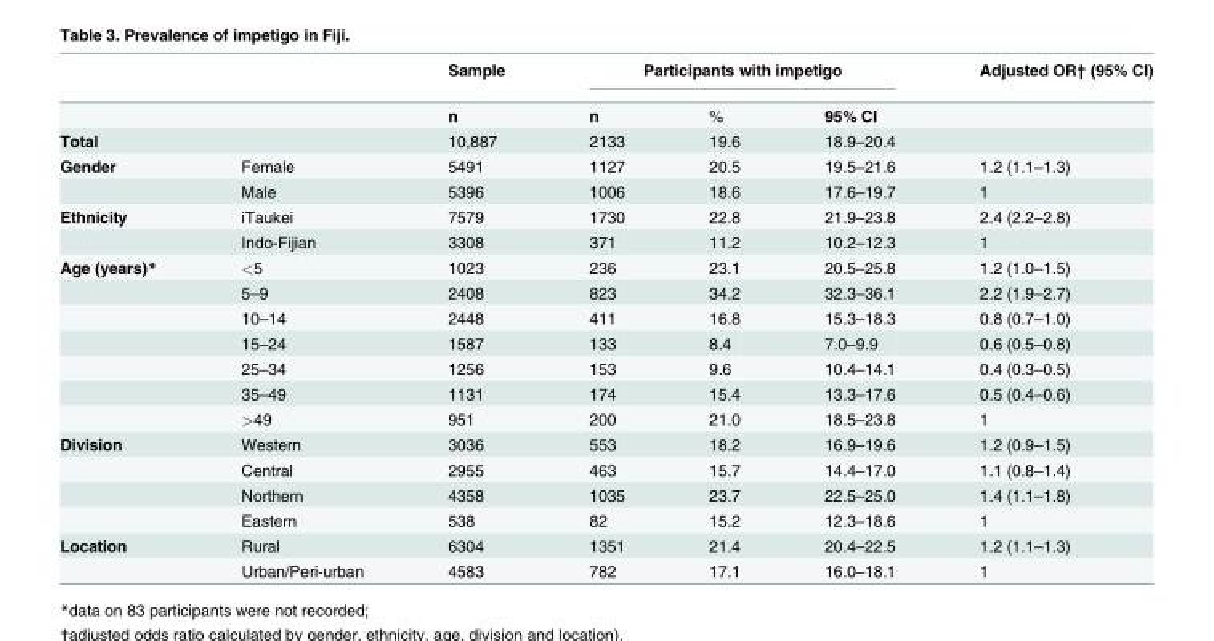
<table><thead><tr><td rowspan="2"></td><td rowspan="2"></td><td rowspan="2">Sample n</td><td colspan="3">Participants with impetigo</td><td rowspan="2">Adjusted OR† (95% CI)</td></tr><tr><td>n</td><td>%</td><td>95% CI</td></tr></thead><tbody><tr><td>Total</td><td></td><td>10,887</td><td>2133</td><td>19.6</td><td>18.9–20.4</td><td></td></tr><tr><td rowspan="2">Gender</td><td>Female</td><td>5491</td><td>1127</td><td>20.5</td><td>19.5–21.6</td><td>1.2 (1.1–1.3)</td></tr><tr><td>Male</td><td>5396</td><td>1006</td><td>18.6</td><td>17.6–19.7</td><td>1</td></tr><tr><td rowspan="2">Ethnicity</td><td>iTaukei</td><td>7579</td><td>1730</td><td>22.8</td><td>21.9–23.8</td><td>2.4 (2.2–2.8)</td></tr><tr><td>Indo-Fijian</td><td>3308</td><td>371</td><td>11.2</td><td>10.2–12.3</td><td>1</td></tr><tr><td rowspan="7">Age (years)*</td><td>&lt;5</td><td>1023</td><td>236</td><td>23.1</td><td>20.5–25.8</td><td>1.2 (1.0–1.5)</td></tr><tr><td>5–9</td><td>2408</td><td>823</td><td>34.2</td><td>32.3–36.1</td><td>2.2 (1.9–2.7)</td></tr><tr><td>10–14</td><td>2448</td><td>411</td><td>16.8</td><td>15.3–18.3</td><td>0.8 (0.7–1.0)</td></tr><tr><td>15–24</td><td>1587</td><td>133</td><td>8.4</td><td>7.0–9.9</td><td>0.6 (0.5–0.8)</td></tr><tr><td>25–34</td><td>1256</td><td>153</td><td>9.6</td><td>10.4–14.1</td><td>0.4 (0.3–0.5)</td></tr><tr><td>35–49</td><td>1131</td><td>174</td><td>15.4</td><td>13.3–17.6</td><td>0.5 (0.4–0.6)</td></tr><tr><td>&gt;49</td><td>951</td><td>200</td><td>21.0</td><td>18.5–23.8</td><td>1</td></tr><tr><td rowspan="4">Division</td><td>Western</td><td>3036</td><td>553</td><td>18.2</td><td>16.9–19.6</td><td>1.2 (0.9–1.5)</td></tr><tr><td>Central</td><td>2955</td><td>463</td><td>15.7</td><td>14.4–17.0</td><td>1.1 (0.8–1.4)</td></tr><tr><td>Northern</td><td>4358</td><td>1035</td><td>23.7</td><td>22.5–25.0</td><td>1.4 (1.1–1.8)</td></tr><tr><td>Eastern</td><td>538</td><td>82</td><td>15.2</td><td>12.3–18.6</td><td>1</td></tr><tr><td rowspan="2">Location</td><td>Rural</td><td>6304</td><td>1351</td><td>21.4</td><td>20.4–22.5</td><td>1.2 (1.1–1.3)</td></tr><tr><td>Urban/Peri-urban</td><td>4583</td><td>782</td><td>17.1</td><td>16.0–18.1</td><td>1</td></tr></tbody></table>